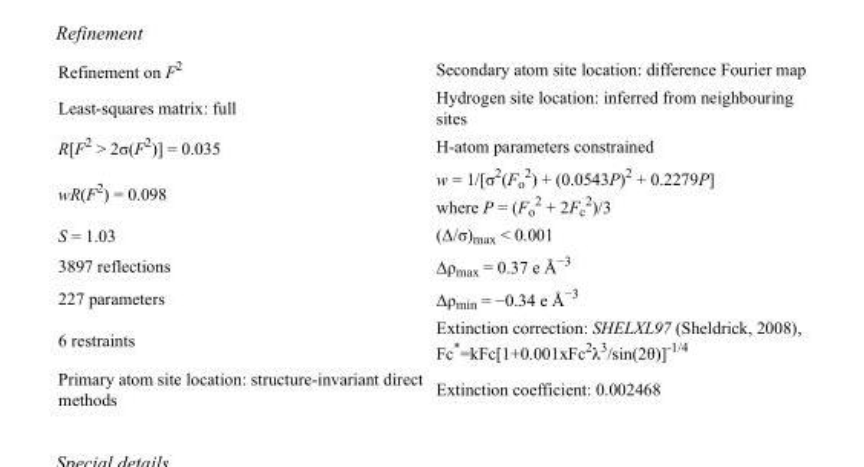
<table><tbody><tr><td>Refinement on F<sup>2</sup></td><td>Secondary atom site location: difference Fourier map</td></tr><tr><td>Least-squares matrix: full</td><td>Hydrogen site location: inferred from neighbouring sites</td></tr><tr><td>R[F<sup>2</sup> &gt; 2σ(F<sup>2</sup>)] = 0.035</td><td>H-atom parameters constrained</td></tr><tr><td>wR(F<sup>2</sup>) = 0.098</td><td>w = 1/[σ<sup>2</sup>(F<sub>o</sub> <sup>2</sup>) + (0.0543P)<sup>2</sup> + 0.2279P] where P = (F<sub>o</sub> <sup>2</sup> + 2F<sub>c</sub> <sup>2</sup>)/3</td></tr><tr><td>S = 1.03</td><td>(Δ/σ)<sub>max</sub> &lt; 0.001</td></tr><tr><td>3897 reflections</td><td>Δρ<sub>max</sub> = 0.37 e Å<sup>−3</sup></td></tr><tr><td>227 parameters</td><td>Δρ<sub>min</sub> = −0.34 e Å<sup>−3</sup></td></tr><tr><td>6 restraints</td><td>Extinction correction: SHELXL97 (Sheldrick, 2008), Fc*=kFc[1+0.001xFc<sup>2</sup>λ<sup>3</sup>/sin(2θ)]<sup>-1/4</sup></td></tr><tr><td>Primary atom site location: structure-invariant direct methods</td><td>Extinction coefficient: 0.002468</td></tr></tbody></table>